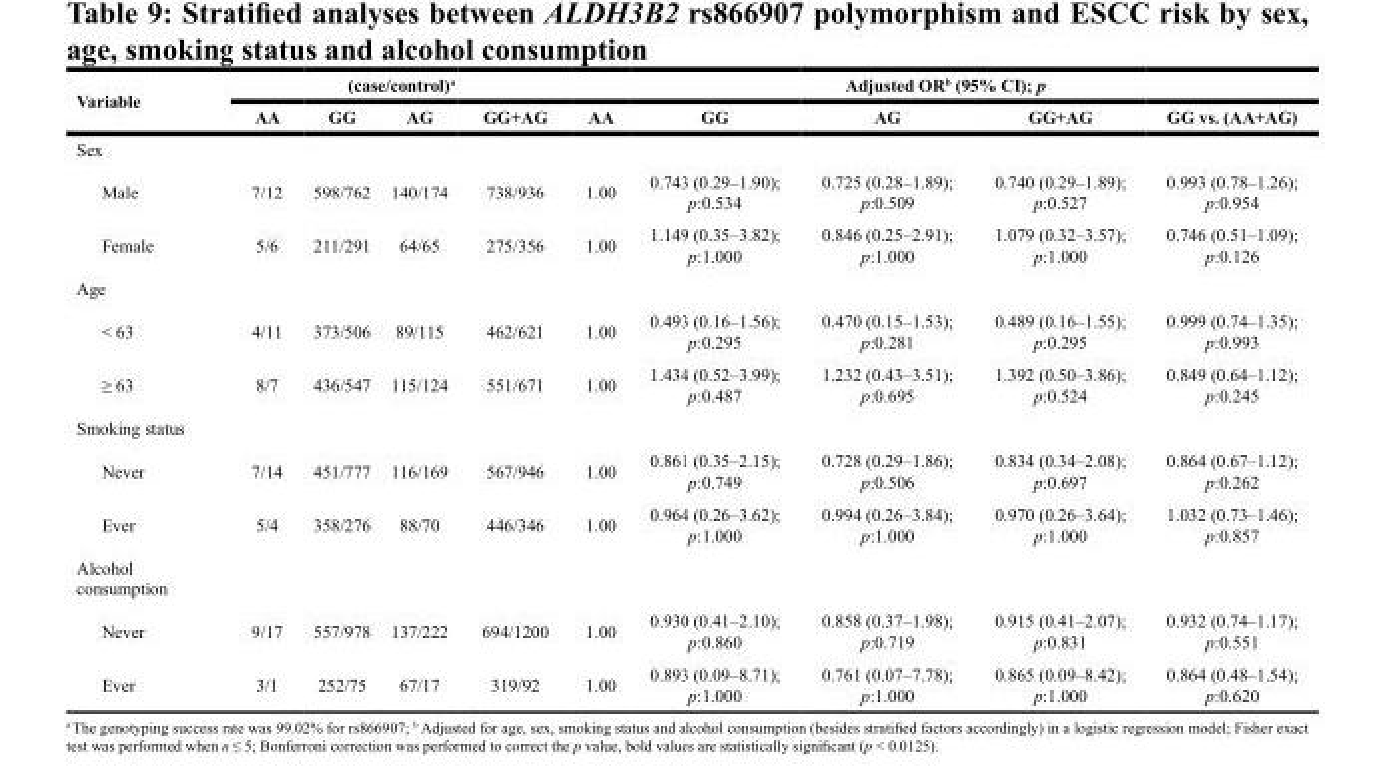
<table><thead><tr><td rowspan="2">Variable</td><td colspan="4">(case/control)<sup>a</sup></td><td colspan="5">Adjusted OR<sup>b</sup> (95% CI); p</td></tr><tr><td>AA</td><td>GG</td><td>AG</td><td>GG+AG</td><td>AA</td><td>GG</td><td>AG</td><td>GG+AG</td><td>GG vs. (AA+AG)</td></tr></thead><tbody><tr><td colspan="10">Sex</td></tr><tr><td>Male</td><td>7/12</td><td>598/762</td><td>140/174</td><td>738/936</td><td>1.00</td><td>0.743 (0.29–1.90); p:0.534</td><td>0.725 (0.28–1.89); p:0.509</td><td>0.740 (0.29–1.89); p:0.527</td><td>0.993 (0.78–1.26); p:0.954</td></tr><tr><td>Female</td><td>5/6</td><td>211/291</td><td>64/65</td><td>275/356</td><td>1.00</td><td>1.149 (0.35–3.82); p:1.000</td><td>0.846 (0.25–2.91); p:1.000</td><td>1.079 (0.32–3.57); p:1.000</td><td>0.746 (0.51–1.09); p:0.126</td></tr><tr><td colspan="10">Age</td></tr><tr><td>&lt; 63</td><td>4/11</td><td>373/506</td><td>89/115</td><td>462/621</td><td>1.00</td><td>0.493 (0.16–1.56); p:0.295</td><td>0.470 (0.15–1.53); p:0.281</td><td>0.489 (0.16–1.55); p:0.295</td><td>0.999 (0.74–1.35); p:0.993</td></tr><tr><td>≥ 63</td><td>8/7</td><td>436/547</td><td>115/124</td><td>551/671</td><td>1.00</td><td>1.434 (0.52–3.99); p:0.487</td><td>1.232 (0.43–3.51); p:0.695</td><td>1.392 (0.50–3.86); p:0.524</td><td>0.849 (0.64–1.12); p:0.245</td></tr><tr><td colspan="10">Smoking status</td></tr><tr><td>Never</td><td>7/14</td><td>451/777</td><td>116/169</td><td>567/946</td><td>1.00</td><td>0.861 (0.35–2.15); p:0.749</td><td>0.728 (0.29–1.86); p:0.506</td><td>0.834 (0.34–2.08); p:0.697</td><td>0.864 (0.67–1.12); p:0.262</td></tr><tr><td>Ever</td><td>5/4</td><td>358/276</td><td>88/70</td><td>446/346</td><td>1.00</td><td>0.964 (0.26–3.62); p:1.000</td><td>0.994 (0.26–3.84); p:1.000</td><td>0.970 (0.26–3.64); p:1.000</td><td>1.032 (0.73–1.46); p:0.857</td></tr><tr><td colspan="10">Alcohol consumption</td></tr><tr><td>Never</td><td>9/17</td><td>557/978</td><td>137/222</td><td>694/1200</td><td>1.00</td><td>0.930 (0.41–2.10); p:0.860</td><td>0.858 (0.37–1.98); p:0.719</td><td>0.915 (0.41–2.07); p:0.831</td><td>0.932 (0.74–1.17); p:0.551</td></tr><tr><td>Ever</td><td>3/1</td><td>252/75</td><td>67/17</td><td>319/92</td><td>1.00</td><td>0.893 (0.09–8.71); p:1.000</td><td>0.761 (0.07–7.78); p:1.000</td><td>0.865 (0.09–8.42); p:1.000</td><td>0.864 (0.48–1.54); p:0.620</td></tr></tbody></table>